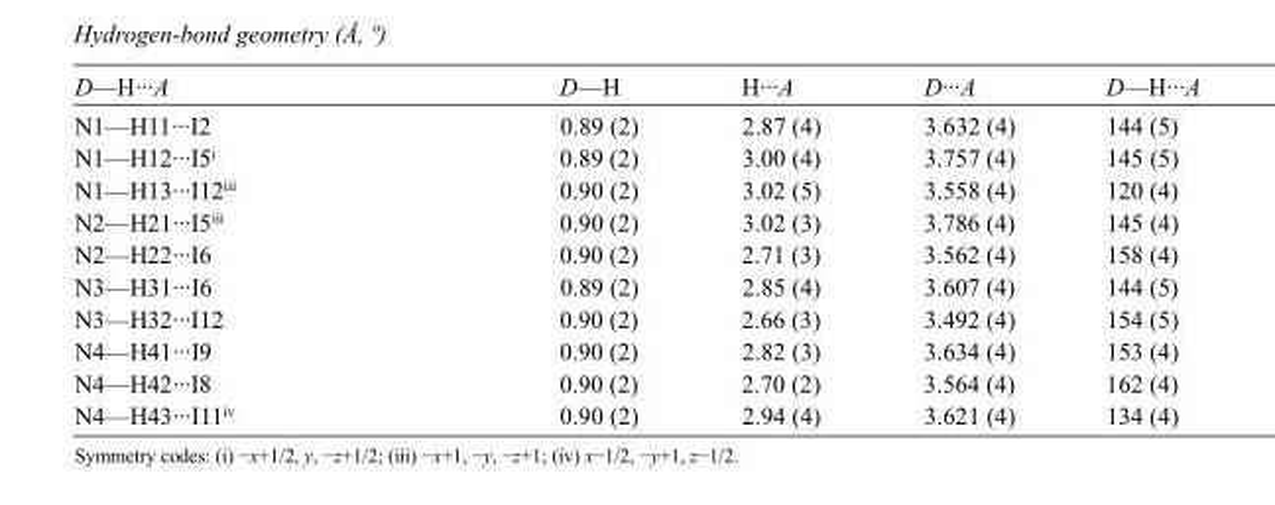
<table><tbody><tr><td>D—H···A</td><td>D—H</td><td>H···A</td><td>D···A</td><td>D—H···A</td></tr><tr><td>N1—H11···I2</td><td>0.89 (2)</td><td>2.87 (4)</td><td>3.632 (4)</td><td>144 (5)</td></tr><tr><td>N1—H12···I5<sup>i</sup></td><td>0.89 (2)</td><td>3.00 (4)</td><td>3.757 (4)</td><td>145 (5)</td></tr><tr><td>N1—H13···I12<sup>iii</sup></td><td>0.90 (2)</td><td>3.02 (5)</td><td>3.558 (4)</td><td>120 (4)</td></tr><tr><td>N2—H21···I5<sup>iii</sup></td><td>0.90 (2)</td><td>3.02 (3)</td><td>3.786 (4)</td><td>145 (4)</td></tr><tr><td>N2—H22···I6</td><td>0.90 (2)</td><td>2.71 (3)</td><td>3.562 (4)</td><td>158 (4)</td></tr><tr><td>N3—H31···I6</td><td>0.89 (2)</td><td>2.85 (4)</td><td>3.607 (4)</td><td>144 (5)</td></tr><tr><td>N3—H32···I12</td><td>0.90 (2)</td><td>2.66 (3)</td><td>3.492 (4)</td><td>154 (5)</td></tr><tr><td>N4—H41···I9</td><td>0.90 (2)</td><td>2.82 (3)</td><td>3.634 (4)</td><td>153 (4)</td></tr><tr><td>N4—H42···I8</td><td>0.90 (2)</td><td>2.70 (2)</td><td>3.564 (4)</td><td>162 (4)</td></tr><tr><td>N4—H43···I11<sup>iv</sup></td><td>0.90 (2)</td><td>2.94 (4)</td><td>3.621 (4)</td><td>134 (4)</td></tr></tbody></table>